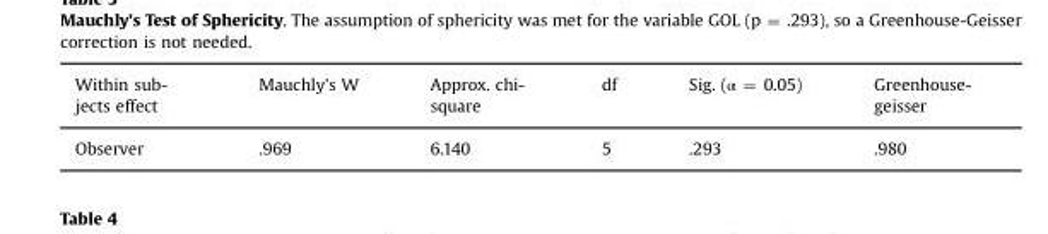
<table><thead><tr><td>Within sub- jects effect</td><td>Mauchly&#x27;s W</td><td>Approx. chi- square</td><td>df</td><td>Sig. (α = 0.05)</td><td>Greenhouse- geisser</td></tr></thead><tbody><tr><td>Observer</td><td>.969</td><td>6.140</td><td>5</td><td>.293</td><td>.980</td></tr></tbody></table>